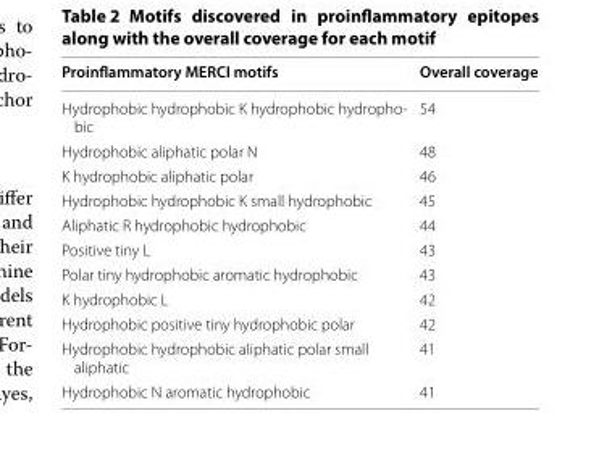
<table><thead><tr><td>Proinflammatory MERCI motifs</td><td>Overall coverage</td></tr></thead><tbody><tr><td>Hydrophobic hydrophobic K hydrophobic hydropho- bic</td><td>54</td></tr><tr><td>Hydrophobic aliphatic polar N</td><td>48</td></tr><tr><td>K hydrophobic aliphatic polar</td><td>46</td></tr><tr><td>Hydrophobic hydrophobic K small hydrophobic</td><td>45</td></tr><tr><td>Aliphatic R hydrophobic hydrophobic</td><td>44</td></tr><tr><td>Positive tiny L</td><td>43</td></tr><tr><td>Polar tiny hydrophobic aromatic hydrophobic</td><td>43</td></tr><tr><td>K hydrophobic L</td><td>42</td></tr><tr><td>Hydrophobic positive tiny hydrophobic polar</td><td>42</td></tr><tr><td>Hydrophobic hydrophobic aliphatic polar small aliphatic</td><td>41</td></tr><tr><td>Hydrophobic N aromatic hydrophobic</td><td>41</td></tr></tbody></table>